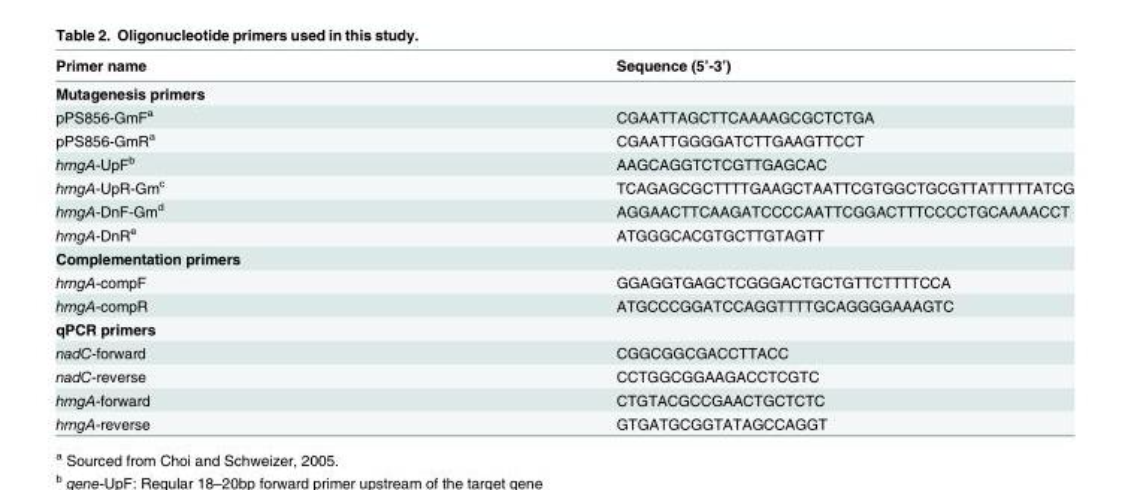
<table><thead><tr><td>Primer name</td><td>Sequence (5’-3’)</td></tr></thead><tbody><tr><td colspan="2">Mutagenesis primers</td></tr><tr><td>pPS856-GmF<sup>a</sup></td><td>CGAATTAGCTTCAAAAGCGCTCTGA</td></tr><tr><td>pPS856-GmR<sup>a</sup></td><td>CGAATTGGGGATCTTGAAGTTCCT</td></tr><tr><td>hmgA-UpF<sup>b</sup></td><td>AAGCAGGTCTCGTTGAGCAC</td></tr><tr><td>hmgA-UpR-Gm<sup>c</sup></td><td>TCAGAGCGCTTTTGAAGCTAATTCGTGGCTGCGTTATTTTTATCG</td></tr><tr><td>hmgA-DnF-Gm<sup>d</sup></td><td>AGGAACTTCAAGATCCCCAATTCGGACTTTCCCCTGCAAAACCT</td></tr><tr><td>hmgA-DnR<sup>e</sup></td><td>ATGGGCACGTGCTTGTAGTT</td></tr><tr><td colspan="2">Complementation primers</td></tr><tr><td>hmgA-compF</td><td>GGAGGTGAGCTCGGGACTGCTGTTCTTTTCCA</td></tr><tr><td>hmgA-compR</td><td>ATGCCCGGATCCAGGTTTTGCAGGGGAAAGTC</td></tr><tr><td colspan="2">qPCR primers</td></tr><tr><td>nadC-forward</td><td>CGGCGGCGACCTTACC</td></tr><tr><td>nadC-reverse</td><td>CCTGGCGGAAGACCTCGTC</td></tr><tr><td>hmgA-forward</td><td>CTGTACGCCGAACTGCTCTC</td></tr><tr><td>hmgA-reverse</td><td>GTGATGCGGTATAGCCAGGT</td></tr></tbody></table>